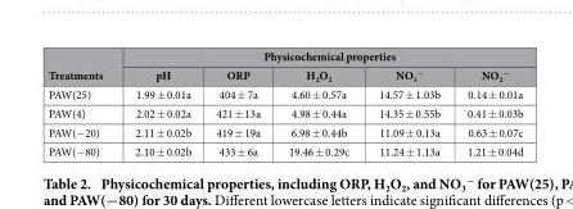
<table><thead><tr><td rowspan="2">Treatments</td><td colspan="5">Physicochemical properties</td></tr><tr><td>pH</td><td>ORP</td><td>H<sub>2</sub>O<sub>2</sub></td><td>NO<sub>3</sub> <sup>−</sup></td><td>NO<sub>2</sub> <sup>−</sup></td></tr></thead><tbody><tr><td>PAW(25)</td><td>1.99 ± 0.01a</td><td>404 ± 7a</td><td>4.60 ± 0.57a</td><td>14.57 ± 1.03b</td><td>0.14 ± 0.01a</td></tr><tr><td>PAW(4)</td><td>2.02 ± 0.02a</td><td>421 ± 13a</td><td>4.98 ± 0.44a</td><td>14.35 ± 0.55b</td><td>0.41 ± 0.03b</td></tr><tr><td>PAW(−20)</td><td>2.11 ± 0.02b</td><td>419 ± 19a</td><td>6.98 ± 0.44b</td><td>11.09 ± 0.13a</td><td>0.63 ± 0.07c</td></tr><tr><td>PAW(−80)</td><td>2.10 ± 0.02b</td><td>433 ± 6a</td><td>19.46 ± 0.29c</td><td>11.24 ± 1.13a</td><td>1.21 ± 0.04d</td></tr></tbody></table>